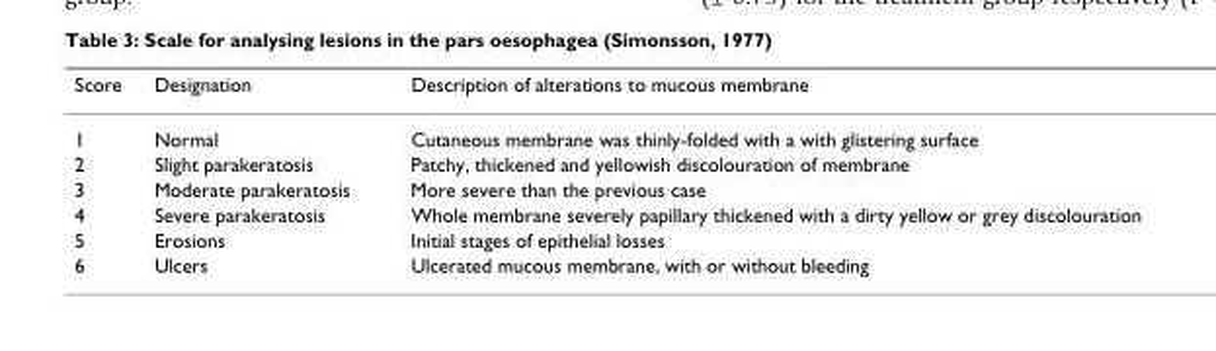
<table><thead><tr><td>Score</td><td>Designation</td><td>Description of alterations to mucous membrane</td></tr></thead><tbody><tr><td>1</td><td>Normal</td><td>Cutaneous membrane was thinly-folded with a with glistering surface</td></tr><tr><td>2</td><td>Slight parakeratosis</td><td>Patchy, thickened and yellowish discolouration of membrane</td></tr><tr><td>3</td><td>Moderate parakeratosis</td><td>More severe than the previous case</td></tr><tr><td>4</td><td>Severe parakeratosis</td><td>Whole membrane severely papillary thickened with a dirty yellow or grey discolouration</td></tr><tr><td>5</td><td>Erosions</td><td>Initial stages of epithelial losses</td></tr><tr><td>6</td><td>Ulcers</td><td>Ulcerated mucous membrane, with or without bleeding</td></tr></tbody></table>